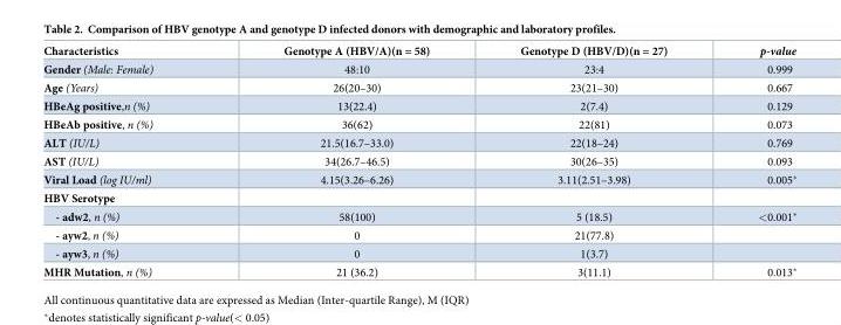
<table><thead><tr><td>Characteristics</td><td>Genotype A (HBV/A)(n = 58)</td><td>Genotype D (HBV/D)(n = 27)</td><td>p-value</td></tr></thead><tbody><tr><td>Gender (Male: Female)</td><td>48:10</td><td>23:4</td><td>0.999</td></tr><tr><td>Age (Years)</td><td>26(20–30)</td><td>23(21–30)</td><td>0.667</td></tr><tr><td>HBeAg positive,n (%)</td><td>13(22.4)</td><td>2(7.4)</td><td>0.129</td></tr><tr><td>HBeAb positive, n (%)</td><td>36(62)</td><td>22(81)</td><td>0.073</td></tr><tr><td>ALT (IU/L)</td><td>21.5(16.7–33.0)</td><td>22(18–24)</td><td>0.769</td></tr><tr><td>AST (IU/L)</td><td>34(26.7–46.5)</td><td>30(26–35)</td><td>0.093</td></tr><tr><td>Viral Load (log IU/ml)</td><td>4.15(3.26–6.26)</td><td>3.11(2.51–3.98)</td><td>0.005*</td></tr><tr><td colspan="4">HBV Serotype</td></tr><tr><td>- adw2, n (%)</td><td>58(100)</td><td>5 (18.5)</td><td>&lt;0.001*</td></tr><tr><td>- ayw2, n (%)</td><td>0</td><td>21(77.8)</td><td></td></tr><tr><td>- ayw3, n (%)</td><td>0</td><td>1(3.7)</td><td></td></tr><tr><td>MHR Mutation, n (%)</td><td>21 (36.2)</td><td>3(11.1)</td><td>0.013*</td></tr></tbody></table>